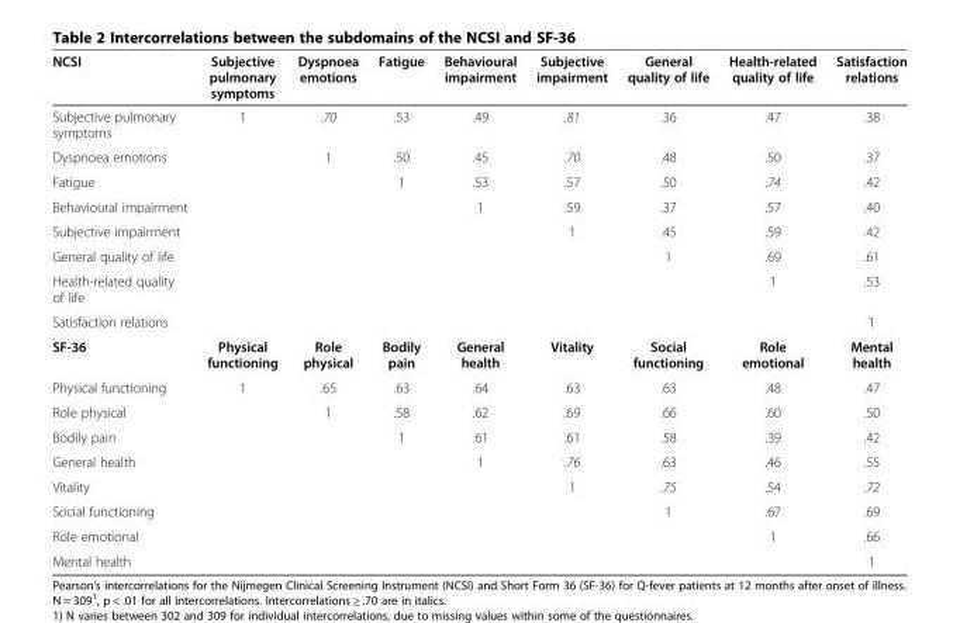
<table><thead><tr><td>NCSI</td><td>Subjective pulmonary symptoms</td><td>Dyspnoea emotions</td><td>Fatigue</td><td>Behavioural impairment</td><td>Subjective impairment</td><td>General quality of life</td><td>Health-related quality of life</td><td>Satisfaction relations</td></tr></thead><tbody><tr><td>Subjective pulmonary symptoms</td><td>1</td><td>.70</td><td>.53</td><td>.49</td><td>.81</td><td>.36</td><td>.47</td><td>.38</td></tr><tr><td>Dyspnoea emotions</td><td></td><td>1</td><td>.50</td><td>.45</td><td>.70</td><td>.48</td><td>.50</td><td>.37</td></tr><tr><td>Fatigue</td><td></td><td></td><td>1</td><td>.53</td><td>.57</td><td>.50</td><td>.74</td><td>.42</td></tr><tr><td>Behavioural impairment</td><td></td><td></td><td></td><td>1</td><td>.59</td><td>.37</td><td>.57</td><td>.40</td></tr><tr><td>Subjective impairment</td><td></td><td></td><td></td><td></td><td>1</td><td>.45</td><td>.59</td><td>.42</td></tr><tr><td>General quality of life</td><td></td><td></td><td></td><td></td><td></td><td>1</td><td>.69</td><td>.61</td></tr><tr><td>Health-related quality of life</td><td></td><td></td><td></td><td></td><td></td><td></td><td>1</td><td>.53</td></tr><tr><td>Satisfaction relations</td><td></td><td></td><td></td><td></td><td></td><td></td><td></td><td>1</td></tr><tr><td>SF-36</td><td>Physical functioning</td><td>Role physical</td><td>Bodily pain</td><td>General health</td><td>Vitality</td><td>Social functioning</td><td>Role emotional</td><td>Mental health</td></tr><tr><td>Physical functioning</td><td>1</td><td>.65</td><td>.63</td><td>.64</td><td>.63</td><td>.63</td><td>.48</td><td>.47</td></tr><tr><td>Role physical</td><td></td><td>1</td><td>.58</td><td>.62</td><td>.69</td><td>.66</td><td>.60</td><td>.50</td></tr><tr><td>Bodily pain</td><td></td><td></td><td>1</td><td>.61</td><td>.61</td><td>.58</td><td>.39</td><td>.42</td></tr><tr><td>General health</td><td></td><td></td><td></td><td>1</td><td>.76</td><td>.63</td><td>.46</td><td>.55</td></tr><tr><td>Vitality</td><td></td><td></td><td></td><td></td><td>1</td><td>.75</td><td>.54</td><td>.72</td></tr><tr><td>Social functioning</td><td></td><td></td><td></td><td></td><td></td><td>1</td><td>.67</td><td>.69</td></tr><tr><td>Role emotional</td><td></td><td></td><td></td><td></td><td></td><td></td><td>1</td><td>.66</td></tr><tr><td>Mental health</td><td></td><td></td><td></td><td></td><td></td><td></td><td></td><td>1</td></tr></tbody></table>